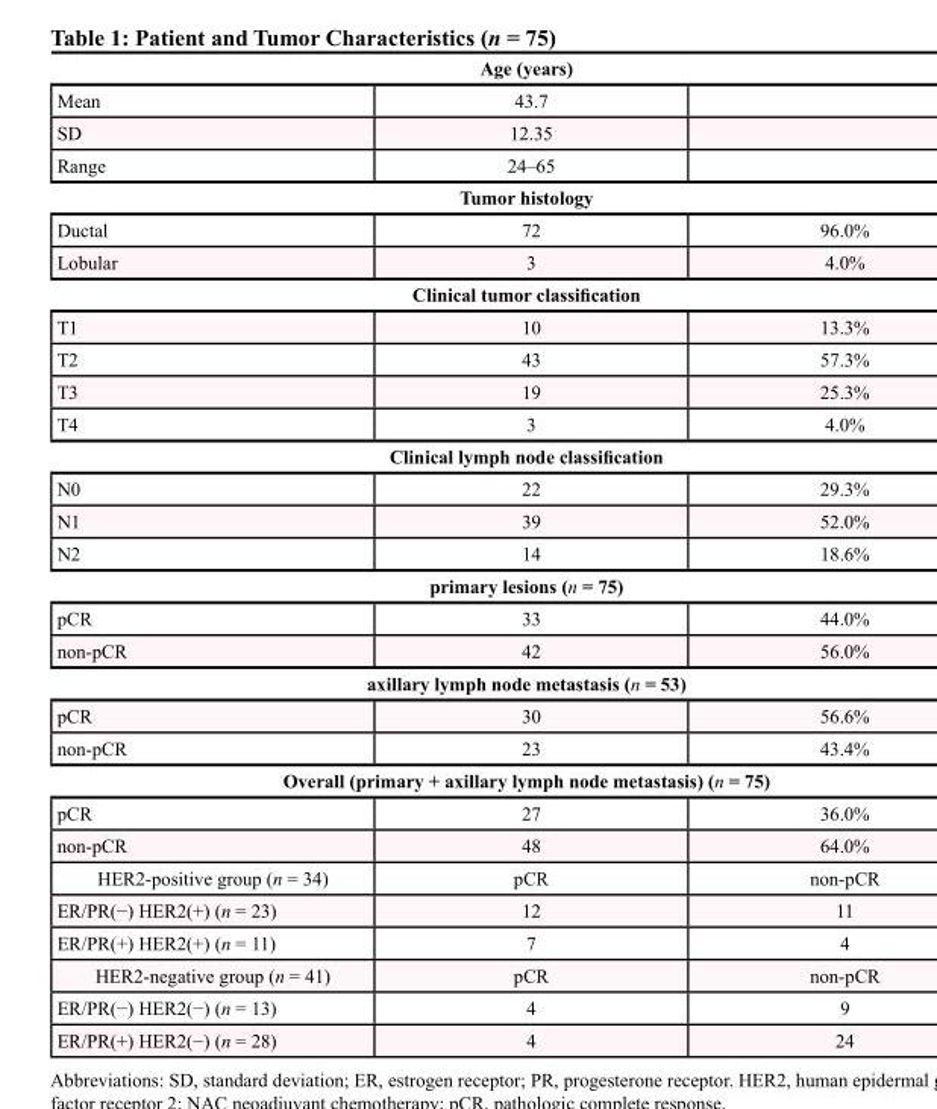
<table><tbody><tr><td colspan="3">Age (years)</td></tr><tr><td>Mean</td><td>43.7</td><td></td></tr><tr><td>SD</td><td>12.35</td><td></td></tr><tr><td>Range</td><td>24–65</td><td></td></tr><tr><td colspan="3">Tumor histology</td></tr><tr><td>Ductal</td><td>72</td><td>96.0%</td></tr><tr><td>Lobular</td><td>3</td><td>4.0%</td></tr><tr><td colspan="3">Clinical tumor classification</td></tr><tr><td>T1</td><td>10</td><td>13.3%</td></tr><tr><td>T2</td><td>43</td><td>57.3%</td></tr><tr><td>T3</td><td>19</td><td>25.3%</td></tr><tr><td>T4</td><td>3</td><td>4.0%</td></tr><tr><td colspan="3">Clinical lymph node classification</td></tr><tr><td>N0</td><td>22</td><td>29.3%</td></tr><tr><td>N1</td><td>39</td><td>52.0%</td></tr><tr><td>N2</td><td>14</td><td>18.6%</td></tr><tr><td colspan="3">primary lesions (n = 75)</td></tr><tr><td>pCR</td><td>33</td><td>44.0%</td></tr><tr><td>non-pCR</td><td>42</td><td>56.0%</td></tr><tr><td colspan="3">axillary lymph node metastasis (n = 53)</td></tr><tr><td>pCR</td><td>30</td><td>56.6%</td></tr><tr><td>non-pCR</td><td>23</td><td>43.4%</td></tr><tr><td colspan="3">Overall (primary + axillary lymph node metastasis) (n = 75)</td></tr><tr><td>pCR</td><td>27</td><td>36.0%</td></tr><tr><td>non-pCR</td><td>48</td><td>64.0%</td></tr><tr><td>HER2-positive group (n = 34)</td><td>pCR</td><td>non-pCR</td></tr><tr><td>ER/PR(−) HER2(+) (n = 23)</td><td>12</td><td>11</td></tr><tr><td>ER/PR(+) HER2(+) (n = 11)</td><td>7</td><td>4</td></tr><tr><td>HER2-negative group (n = 41)</td><td>pCR</td><td>non-pCR</td></tr><tr><td>ER/PR(−) HER2(−) (n = 13)</td><td>4</td><td>9</td></tr><tr><td>ER/PR(+) HER2(−) (n = 28)</td><td>4</td><td>24</td></tr></tbody></table>